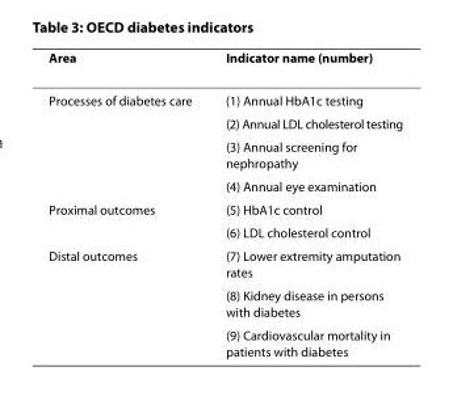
<table><thead><tr><td>Area</td><td>Indicator name (number)</td></tr></thead><tbody><tr><td rowspan="4">Processes of diabetes care</td><td>(1) Annual HbA1c testing</td></tr><tr><td>(2) Annual LDL cholesterol testing</td></tr><tr><td>(3) Annual screening for nephropathy</td></tr><tr><td>(4) Annual eye examination</td></tr><tr><td rowspan="2">Proximal outcomes</td><td>(5) HbA1c control</td></tr><tr><td>(6) LDL cholesterol control</td></tr><tr><td rowspan="3">Distal outcomes</td><td>(7) Lower extremity amputation rates</td></tr><tr><td>(8) Kidney disease in persons with diabetes</td></tr><tr><td>(9) Cardiovascular mortality in patients with diabetes</td></tr></tbody></table>